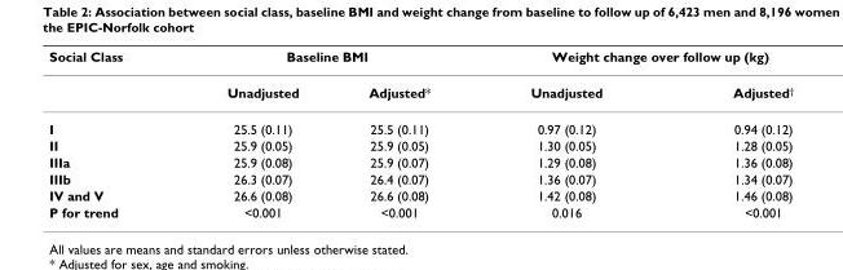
<table><thead><tr><td rowspan="2">Social Class</td><td colspan="2">Baseline BMI</td><td colspan="2">Weight change over follow up (kg)</td></tr><tr><td>Unadjusted</td><td>Adjusted*</td><td>Unadjusted</td><td>Adjusted<sup>†</sup></td></tr></thead><tbody><tr><td>I</td><td>25.5 (0.11)</td><td>25.5 (0.11)</td><td>0.97 (0.12)</td><td>0.94 (0.12)</td></tr><tr><td>II</td><td>25.9 (0.05)</td><td>25.9 (0.05)</td><td>1.30 (0.05)</td><td>1.28 (0.05)</td></tr><tr><td>IIIa</td><td>25.9 (0.08)</td><td>25.9 (0.07)</td><td>1.29 (0.08)</td><td>1.36 (0.08)</td></tr><tr><td>IIIb</td><td>26.3 (0.07)</td><td>26.4 (0.07)</td><td>1.36 (0.07)</td><td>1.34 (0.07)</td></tr><tr><td>IV and V</td><td>26.6 (0.08)</td><td>26.6 (0.08)</td><td>1.42 (0.08)</td><td>1.46 (0.08)</td></tr><tr><td>P for trend</td><td>&lt;0.001</td><td>&lt;0.001</td><td>0.016</td><td>&lt;0.001</td></tr></tbody></table>